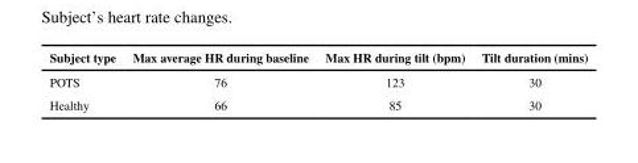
<table><thead><tr><td>Subject type</td><td>Max average HR during baseline</td><td>Max HR during tilt (bpm)</td><td>Tilt duration (mins)</td></tr></thead><tbody><tr><td>POTS</td><td>76</td><td>123</td><td>30</td></tr><tr><td>Healthy</td><td>66</td><td>85</td><td>30</td></tr></tbody></table>